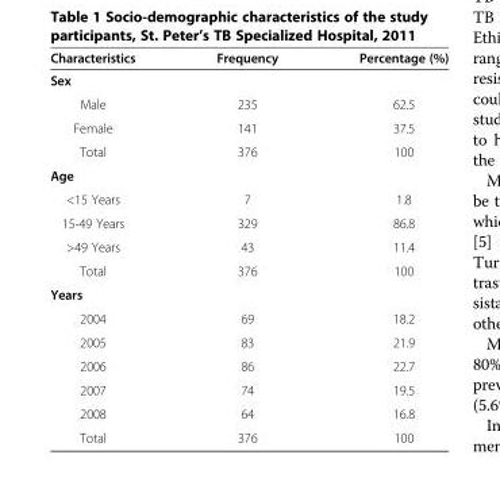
<table><thead><tr><td>Characteristics</td><td>Frequency</td><td>Percentage (%)</td></tr></thead><tbody><tr><td colspan="3">Sex</td></tr><tr><td>Male</td><td>235</td><td>62.5</td></tr><tr><td>Female</td><td>141</td><td>37.5</td></tr><tr><td>Total</td><td>376</td><td>100</td></tr><tr><td colspan="3">Age</td></tr><tr><td>&lt;15 Years</td><td>7</td><td>1.8</td></tr><tr><td>15-49 Years</td><td>329</td><td>86.8</td></tr><tr><td>&gt;49 Years</td><td>43</td><td>11.4</td></tr><tr><td>Total</td><td>376</td><td>100</td></tr><tr><td colspan="3">Years</td></tr><tr><td>2004</td><td>69</td><td>18.2</td></tr><tr><td>2005</td><td>83</td><td>21.9</td></tr><tr><td>2006</td><td>86</td><td>22.7</td></tr><tr><td>2007</td><td>74</td><td>19.5</td></tr><tr><td>2008</td><td>64</td><td>16.8</td></tr><tr><td>Total</td><td>376</td><td>100</td></tr></tbody></table>